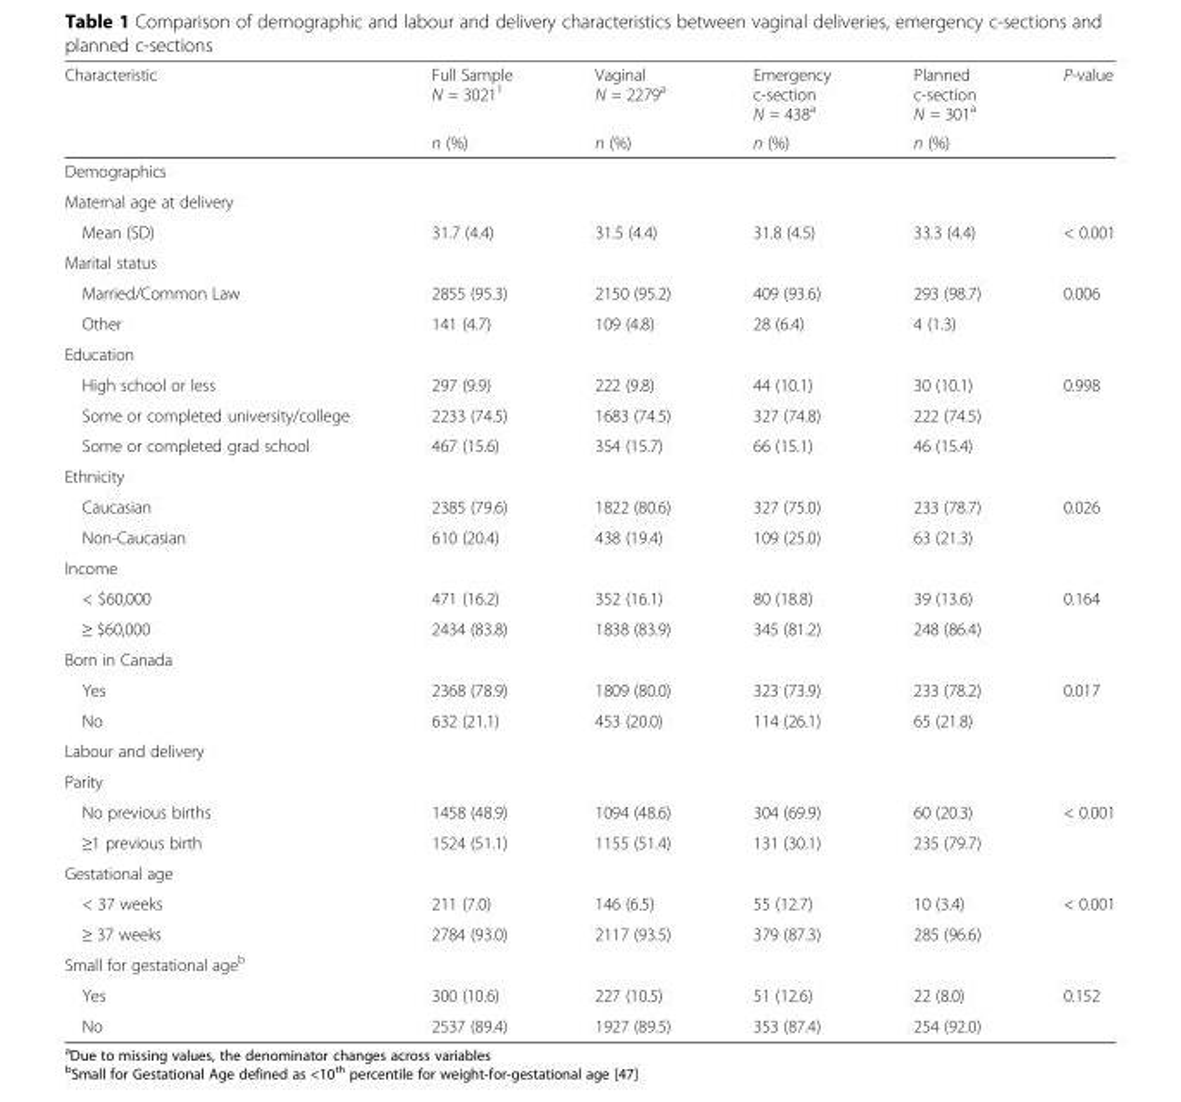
<table><thead><tr><td rowspan="2">Characteristic</td><td rowspan="2">Full Sample N = 3021<sup>1</sup> n (%)</td><td rowspan="2">Vaginal N = 2279<sup>a</sup> n (%)</td><td rowspan="2">Emergency c-section N = 438<sup>a</sup> n (%)</td><td rowspan="2">Planned c-section N = 301<sup>a</sup> n (%)</td><td rowspan="2">P-value</td></tr><tr></tr></thead><tbody><tr><td colspan="6">Demographics</td></tr><tr><td colspan="6">Maternal age at delivery</td></tr><tr><td>Mean (SD)</td><td>31.7 (4.4)</td><td>31.5 (4.4)</td><td>31.8 (4.5)</td><td>33.3 (4.4)</td><td>&lt; 0.001</td></tr><tr><td colspan="6">Marital status</td></tr><tr><td>Married/Common Law</td><td>2855 (95.3)</td><td>2150 (95.2)</td><td>409 (93.6)</td><td>293 (98.7)</td><td rowspan="2">0.006</td></tr><tr><td>Other</td><td>141 (4.7)</td><td>109 (4.8)</td><td>28 (6.4)</td><td>4 (1.3)</td></tr><tr><td colspan="6">Education</td></tr><tr><td>High school or less</td><td>297 (9.9)</td><td>222 (9.8)</td><td>44 (10.1)</td><td>30 (10.1)</td><td rowspan="3">0.998</td></tr><tr><td>Some or completed university/college</td><td>2233 (74.5)</td><td>1683 (74.5)</td><td>327 (74.8)</td><td>222 (74.5)</td></tr><tr><td>Some or completed grad school</td><td>467 (15.6)</td><td>354 (15.7)</td><td>66 (15.1)</td><td>46 (15.4)</td></tr><tr><td colspan="6">Ethnicity</td></tr><tr><td>Caucasian</td><td>2385 (79.6)</td><td>1822 (80.6)</td><td>327 (75.0)</td><td>233 (78.7)</td><td rowspan="2">0.026</td></tr><tr><td>Non-Caucasian</td><td>610 (20.4)</td><td>438 (19.4)</td><td>109 (25.0)</td><td>63 (21.3)</td></tr><tr><td colspan="6">Income</td></tr><tr><td>&lt; $60,000</td><td>471 (16.2)</td><td>352 (16.1)</td><td>80 (18.8)</td><td>39 (13.6)</td><td rowspan="2">0.164</td></tr><tr><td>≥ $60,000</td><td>2434 (83.8)</td><td>1838 (83.9)</td><td>345 (81.2)</td><td>248 (86.4)</td></tr><tr><td colspan="6">Born in Canada</td></tr><tr><td>Yes</td><td>2368 (78.9)</td><td>1809 (80.0)</td><td>323 (73.9)</td><td>233 (78.2)</td><td rowspan="2">0.017</td></tr><tr><td>No</td><td>632 (21.1)</td><td>453 (20.0)</td><td>114 (26.1)</td><td>65 (21.8)</td></tr><tr><td colspan="6">Labour and delivery</td></tr><tr><td colspan="6">Parity</td></tr><tr><td>No previous births</td><td>1458 (48.9)</td><td>1094 (48.6)</td><td>304 (69.9)</td><td>60 (20.3)</td><td rowspan="2">&lt; 0.001</td></tr><tr><td>≥1 previous birth</td><td>1524 (51.1)</td><td>1155 (51.4)</td><td>131 (30.1)</td><td>235 (79.7)</td></tr><tr><td colspan="6">Gestational age</td></tr><tr><td>&lt; 37 weeks</td><td>211 (7.0)</td><td>146 (6.5)</td><td>55 (12.7)</td><td>10 (3.4)</td><td rowspan="2">&lt; 0.001</td></tr><tr><td>≥ 37 weeks</td><td>2784 (93.0)</td><td>2117 (93.5)</td><td>379 (87.3)</td><td>285 (96.6)</td></tr><tr><td colspan="6">Small for gestational age<sup>b</sup></td></tr><tr><td>Yes</td><td>300 (10.6)</td><td>227 (10.5)</td><td>51 (12.6)</td><td>22 (8.0)</td><td rowspan="2">0.152</td></tr><tr><td>No</td><td>2537 (89.4)</td><td>1927 (89.5)</td><td>353 (87.4)</td><td>254 (92.0)</td></tr></tbody></table>